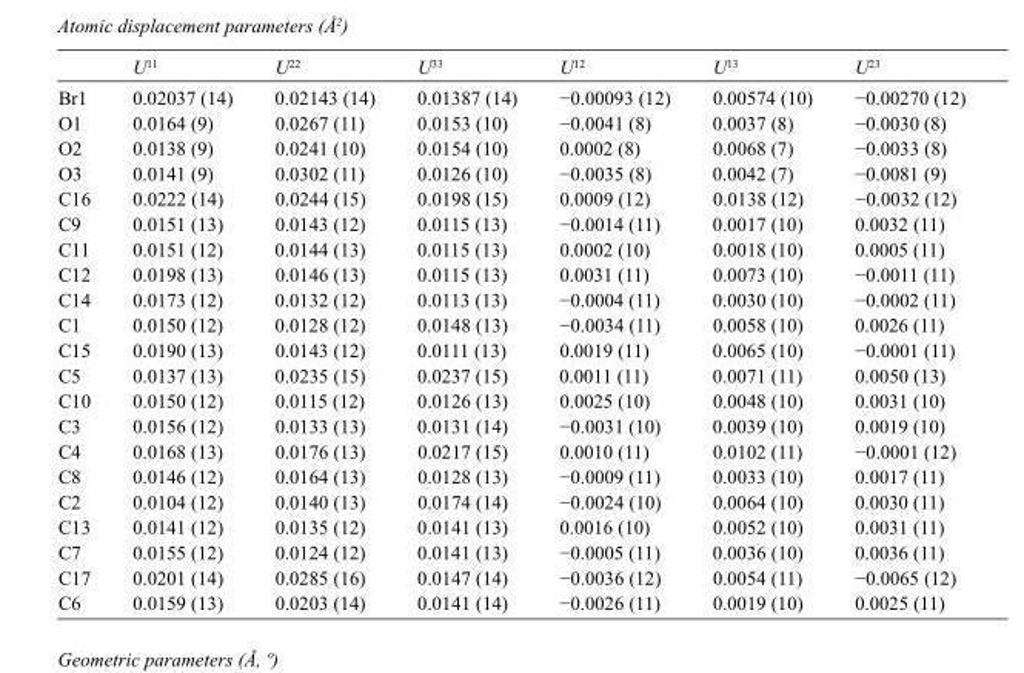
<table><thead><tr><td></td><td>U<sup>11</sup></td><td>U<sup>22</sup></td><td>U<sup>33</sup></td><td>U<sup>12</sup></td><td>U<sup>13</sup></td><td>U<sup>23</sup></td></tr></thead><tbody><tr><td>Br1</td><td>0.02037 (14)</td><td>0.02143 (14)</td><td>0.01387 (14)</td><td>−0.00093 (12)</td><td>0.00574 (10)</td><td>−0.00270 (12)</td></tr><tr><td>O1</td><td>0.0164 (9)</td><td>0.0267 (11)</td><td>0.0153 (10)</td><td>−0.0041 (8)</td><td>0.0037 (8)</td><td>−0.0030 (8)</td></tr><tr><td>O2</td><td>0.0138 (9)</td><td>0.0241 (10)</td><td>0.0154 (10)</td><td>0.0002 (8)</td><td>0.0068 (7)</td><td>−0.0033 (8)</td></tr><tr><td>O3</td><td>0.0141 (9)</td><td>0.0302 (11)</td><td>0.0126 (10)</td><td>−0.0035 (8)</td><td>0.0042 (7)</td><td>−0.0081 (9)</td></tr><tr><td>C16</td><td>0.0222 (14)</td><td>0.0244 (15)</td><td>0.0198 (15)</td><td>0.0009 (12)</td><td>0.0138 (12)</td><td>−0.0032 (12)</td></tr><tr><td>C9</td><td>0.0151 (13)</td><td>0.0143 (12)</td><td>0.0115 (13)</td><td>−0.0014 (11)</td><td>0.0017 (10)</td><td>0.0032 (11)</td></tr><tr><td>C11</td><td>0.0151 (12)</td><td>0.0144 (13)</td><td>0.0115 (13)</td><td>0.0002 (10)</td><td>0.0018 (10)</td><td>0.0005 (11)</td></tr><tr><td>C12</td><td>0.0198 (13)</td><td>0.0146 (13)</td><td>0.0115 (13)</td><td>0.0031 (11)</td><td>0.0073 (10)</td><td>−0.0011 (11)</td></tr><tr><td>C14</td><td>0.0173 (12)</td><td>0.0132 (12)</td><td>0.0113 (13)</td><td>−0.0004 (11)</td><td>0.0030 (10)</td><td>−0.0002 (11)</td></tr><tr><td>C1</td><td>0.0150 (12)</td><td>0.0128 (12)</td><td>0.0148 (13)</td><td>−0.0034 (11)</td><td>0.0058 (10)</td><td>0.0026 (11)</td></tr><tr><td>C15</td><td>0.0190 (13)</td><td>0.0143 (12)</td><td>0.0111 (13)</td><td>0.0019 (11)</td><td>0.0065 (10)</td><td>−0.0001 (11)</td></tr><tr><td>C5</td><td>0.0137 (13)</td><td>0.0235 (15)</td><td>0.0237 (15)</td><td>0.0011 (11)</td><td>0.0071 (11)</td><td>0.0050 (13)</td></tr><tr><td>C10</td><td>0.0150 (12)</td><td>0.0115 (12)</td><td>0.0126 (13)</td><td>0.0025 (10)</td><td>0.0048 (10)</td><td>0.0031 (10)</td></tr><tr><td>C3</td><td>0.0156 (12)</td><td>0.0133 (13)</td><td>0.0131 (14)</td><td>−0.0031 (10)</td><td>0.0039 (10)</td><td>0.0019 (10)</td></tr><tr><td>C4</td><td>0.0168 (13)</td><td>0.0176 (13)</td><td>0.0217 (15)</td><td>0.0010 (11)</td><td>0.0102 (11)</td><td>−0.0001 (12)</td></tr><tr><td>C8</td><td>0.0146 (12)</td><td>0.0164 (13)</td><td>0.0128 (13)</td><td>−0.0009 (11)</td><td>0.0033 (10)</td><td>0.0017 (11)</td></tr><tr><td>C2</td><td>0.0104 (12)</td><td>0.0140 (13)</td><td>0.0174 (14)</td><td>−0.0024 (10)</td><td>0.0064 (10)</td><td>0.0030 (11)</td></tr><tr><td>C13</td><td>0.0141 (12)</td><td>0.0135 (12)</td><td>0.0141 (13)</td><td>0.0016 (10)</td><td>0.0052 (10)</td><td>0.0031 (11)</td></tr><tr><td>C7</td><td>0.0155 (12)</td><td>0.0124 (12)</td><td>0.0141 (13)</td><td>−0.0005 (11)</td><td>0.0036 (10)</td><td>0.0036 (11)</td></tr><tr><td>C17</td><td>0.0201 (14)</td><td>0.0285 (16)</td><td>0.0147 (14)</td><td>−0.0036 (12)</td><td>0.0054 (11)</td><td>−0.0065 (12)</td></tr><tr><td>C6</td><td>0.0159 (13)</td><td>0.0203 (14)</td><td>0.0141 (14)</td><td>−0.0026 (11)</td><td>0.0019 (10)</td><td>0.0025 (11)</td></tr></tbody></table>